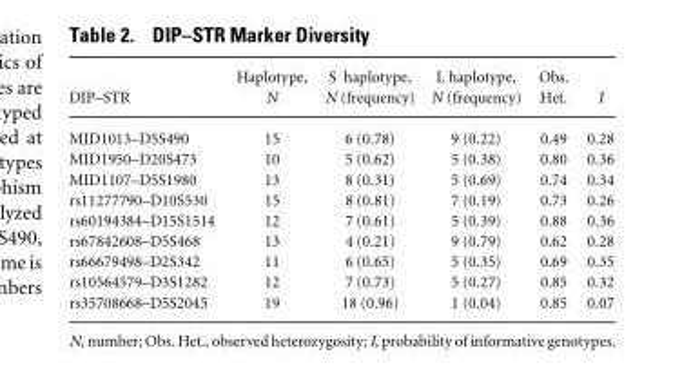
<table><thead><tr><td>DIP–STR</td><td>Haplotype, N</td><td>S haplotype, N (frequency)</td><td>L haplotype, N (frequency)</td><td>Obs. Het.</td><td>I</td></tr></thead><tbody><tr><td>MID1013–D5S490</td><td>15</td><td>6 (0.78)</td><td>9 (0.22)</td><td>0.49</td><td>0.28</td></tr><tr><td>MID1950–D20S473</td><td>10</td><td>5 (0.62)</td><td>5 (0.38)</td><td>0.80</td><td>0.36</td></tr><tr><td>MID1107–D5S1980</td><td>13</td><td>8 (0.31)</td><td>5 (0.69)</td><td>0.74</td><td>0.34</td></tr><tr><td>rs11277790–D10S530</td><td>15</td><td>8 (0.81)</td><td>7 (0.19)</td><td>0.73</td><td>0.26</td></tr><tr><td>rs60194384–D15S1514</td><td>12</td><td>7 (0.61)</td><td>5 (0.39)</td><td>0.88</td><td>0.36</td></tr><tr><td>rs67842608–D5S468</td><td>13</td><td>4 (0.21)</td><td>9 (0.79)</td><td>0.62</td><td>0.28</td></tr><tr><td>rs66679498–D2S342</td><td>11</td><td>6 (0.65)</td><td>5 (0.35)</td><td>0.69</td><td>0.35</td></tr><tr><td>rs10564579–D3S1282</td><td>12</td><td>7 (0.73)</td><td>5 (0.27)</td><td>0.85</td><td>0.32</td></tr><tr><td>rs35708668–D5S2045</td><td>19</td><td>18 (0.96)</td><td>1 (0.04)</td><td>0.85</td><td>0.07</td></tr></tbody></table>